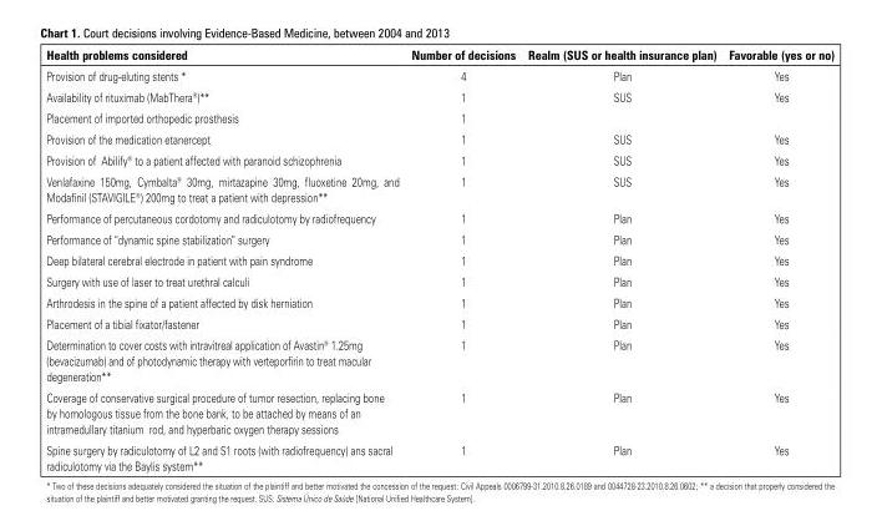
<table><thead><tr><td>Health problems considered</td><td>Number of decisions</td><td>Realm (SUS or health insurance plan)</td><td>Favorable (yes or no)</td></tr></thead><tbody><tr><td>Provision of drug-eluting stents *</td><td>4</td><td>Plan</td><td>Yes</td></tr><tr><td>Availability of rituximab (MabThera<sup>®</sup>)**</td><td>1</td><td>SUS</td><td>Yes</td></tr><tr><td>Placement of imported orthopedic prosthesis</td><td>1</td><td></td><td></td></tr><tr><td>Provision of the medication etanercept</td><td>1</td><td>SUS</td><td>Yes</td></tr><tr><td>Provision of Abilify<sup>®</sup> to a patient affected with paranoid schizophrenia</td><td>1</td><td>SUS</td><td>Yes</td></tr><tr><td>Venlafaxine 150mg, Cymbalta<sup>®</sup> 30mg, mirtazapine 30mg, fluoxetine 20mg, and Modafinil (STAVIGILE<sup>®</sup>) 200mg to treat a patient with depression**</td><td>1</td><td>SUS</td><td>Yes</td></tr><tr><td>Performance of percutaneous cordotomy and radiculotomy by radiofrequency</td><td>1</td><td>Plan</td><td>Yes</td></tr><tr><td>Performance of “dynamic spine stabilization” surgery</td><td>1</td><td>Plan</td><td>Yes</td></tr><tr><td>Deep bilateral cerebral electrode in patient with pain syndrome</td><td>1</td><td>Plan</td><td>Yes</td></tr><tr><td>Surgery with use of laser to treat urethral calculi</td><td>1</td><td>Plan</td><td>Yes</td></tr><tr><td>Arthrodesis in the spine of a patient affected by disk herniation</td><td>1</td><td>Plan</td><td>Yes</td></tr><tr><td>Placement of a tibial fixator/fastener</td><td>1</td><td>Plan</td><td>Yes</td></tr><tr><td>Determination to cover costs with intravitreal application of Avastin<sup>®</sup> 1.25mg (bevacizumab) and of photodynamic therapy with verteporfirin to treat macular degeneration**</td><td>1</td><td>Plan</td><td>Yes</td></tr><tr><td>Coverage of conservative surgical procedure of tumor resection, replacing bone by homologous tissue from the bone bank, to be attached by means of an intramedullary titanium rod, and hyperbaric oxygen therapy sessions</td><td>1</td><td>Plan</td><td>Yes</td></tr><tr><td>Spine surgery by radiculotomy of L2 and S1 roots (with radiofrequency) ans sacral radiculotomy via the Baylis system**</td><td>1</td><td>Plan</td><td>Yes</td></tr></tbody></table>